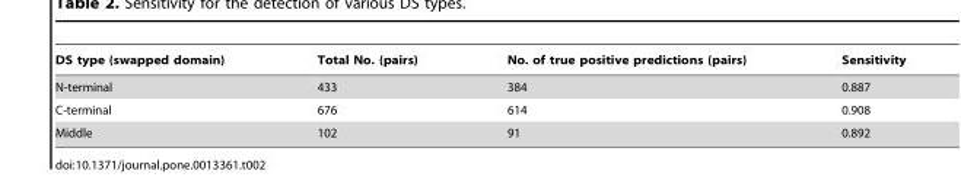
<table><thead><tr><td>DS type (swapped domain)</td><td>Total No. (pairs)</td><td>No. of true positive predictions (pairs)</td><td>Sensitivity</td></tr></thead><tbody><tr><td>N-terminal</td><td>433</td><td>384</td><td>0.887</td></tr><tr><td>C-terminal</td><td>676</td><td>614</td><td>0.908</td></tr><tr><td>Middle</td><td>102</td><td>91</td><td>0.892</td></tr></tbody></table>